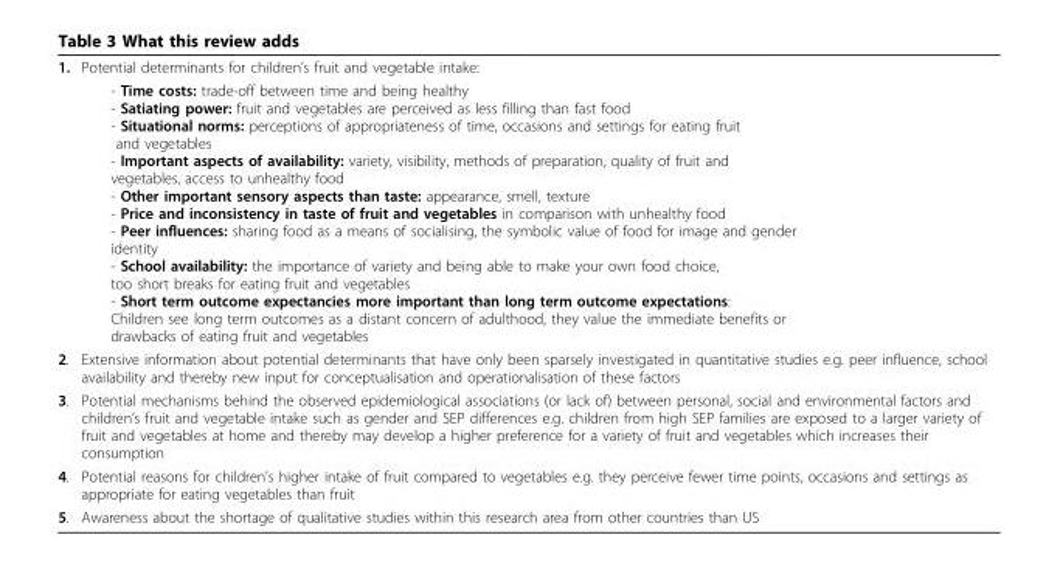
<table><tbody><tr><td rowspan="2">1.</td><td>Potential determinants for children’s fruit and vegetable intake:</td></tr><tr><td>- Time costs: trade-off between time and being healthy - Satiating power: fruit and vegetables are perceived as less filling than fast food - Situational norms: perceptions of appropriateness of time, occasions and settings for eating fruit and vegetables - Important aspects of availability: variety, visibility, methods of preparation, quality of fruit and vegetables, access to unhealthy food - Other important sensory aspects than taste: appearance, smell, texture - Price and inconsistency in taste of fruit and vegetables in comparison with unhealthy food - Peer influences: sharing food as a means of socialising, the symbolic value of food for image and gender identity - School availability: the importance of variety and being able to make your own food choice, too short breaks for eating fruit and vegetables - Short term outcome expectancies more important than long term outcome expectations: Children see long term outcomes as a distant concern of adulthood, they value the immediate benefits or drawbacks of eating fruit and vegetables</td></tr><tr><td>2.</td><td>Extensive information about potential determinants that have only been sparsely investigated in quantitative studies e.g. peer influence, school availability and thereby new input for conceptualisation and operationalisation of these factors</td></tr><tr><td>3.</td><td>Potential mechanisms behind the observed epidemiological associations (or lack of) between personal, social and environmental factors and children’s fruit and vegetable intake such as gender and SEP differences e.g. children from high SEP families are exposed to a larger variety of fruit and vegetables at home and thereby may develop a higher preference for a variety of fruit and vegetables which increases their consumption</td></tr><tr><td>4.</td><td>Potential reasons for children’s higher intake of fruit compared to vegetables e.g. they perceive fewer time points, occasions and settings as appropriate for eating vegetables than fruit</td></tr><tr><td>5.</td><td>Awareness about the shortage of qualitative studies within this research area from other countries than US</td></tr></tbody></table>